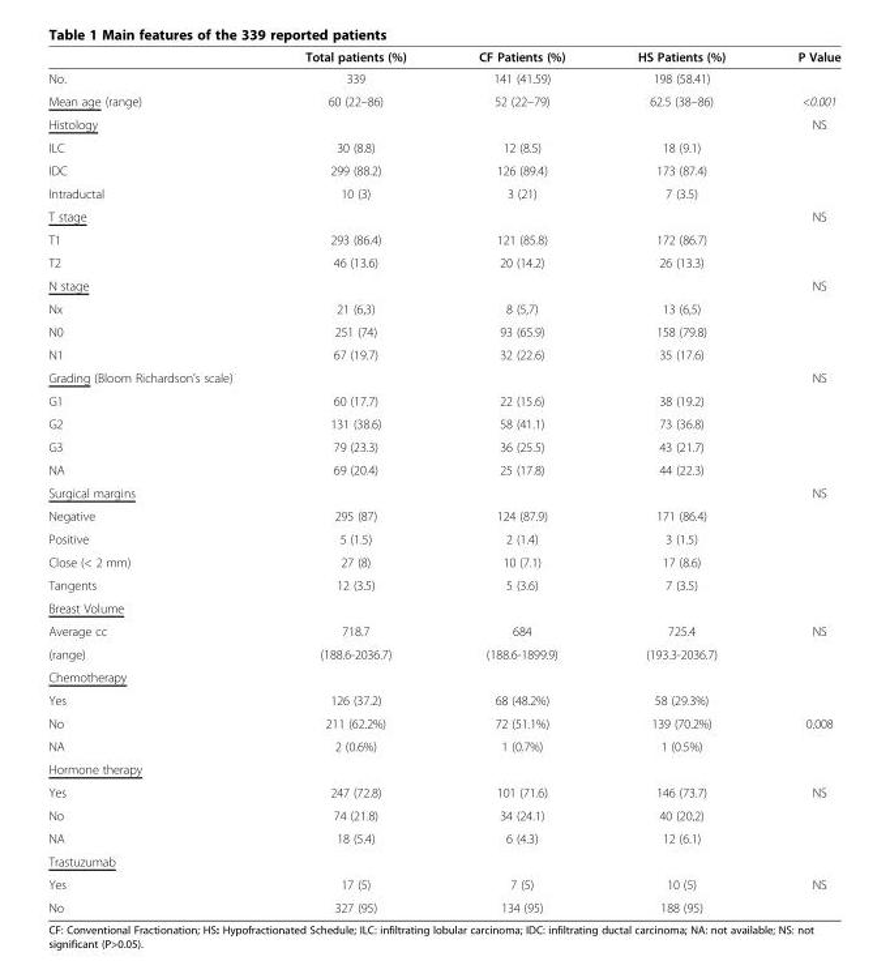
<table><thead><tr><td></td><td>Total patients (%)</td><td>CF Patients (%)</td><td>HS Patients (%)</td><td>P Value</td></tr></thead><tbody><tr><td>No.</td><td>339</td><td>141 (41.59)</td><td>198 (58.41)</td><td></td></tr><tr><td>Mean age (range)</td><td>60 (22–86)</td><td>52 (22–79)</td><td>62.5 (38–86)</td><td>&lt;0.001</td></tr><tr><td>Histology</td><td></td><td></td><td></td><td>NS</td></tr><tr><td>ILC</td><td>30 (8.8)</td><td>12 (8.5)</td><td>18 (9.1)</td><td></td></tr><tr><td>IDC</td><td>299 (88.2)</td><td>126 (89.4)</td><td>173 (87.4)</td><td></td></tr><tr><td>Intraductal</td><td>10 (3)</td><td>3 (21)</td><td>7 (3.5)</td><td></td></tr><tr><td>T stage</td><td></td><td></td><td></td><td>NS</td></tr><tr><td>T1</td><td>293 (86.4)</td><td>121 (85.8)</td><td>172 (86.7)</td><td></td></tr><tr><td>T2</td><td>46 (13.6)</td><td>20 (14.2)</td><td>26 (13.3)</td><td></td></tr><tr><td>N stage</td><td></td><td></td><td></td><td>NS</td></tr><tr><td>Nx</td><td>21 (6,3)</td><td>8 (5,7)</td><td>13 (6,5)</td><td></td></tr><tr><td>N0</td><td>251 (74)</td><td>93 (65.9)</td><td>158 (79.8)</td><td></td></tr><tr><td>N1</td><td>67 (19.7)</td><td>32 (22.6)</td><td>35 (17.6)</td><td></td></tr><tr><td>Grading (Bloom Richardson’s scale)</td><td></td><td></td><td></td><td>NS</td></tr><tr><td>G1</td><td>60 (17.7)</td><td>22 (15.6)</td><td>38 (19.2)</td><td></td></tr><tr><td>G2</td><td>131 (38.6)</td><td>58 (41.1)</td><td>73 (36.8)</td><td></td></tr><tr><td>G3</td><td>79 (23.3)</td><td>36 (25.5)</td><td>43 (21.7)</td><td></td></tr><tr><td>NA</td><td>69 (20.4)</td><td>25 (17.8)</td><td>44 (22.3)</td><td></td></tr><tr><td>Surgical margins</td><td></td><td></td><td></td><td>NS</td></tr><tr><td>Negative</td><td>295 (87)</td><td>124 (87.9)</td><td>171 (86.4)</td><td></td></tr><tr><td>Positive</td><td>5 (1.5)</td><td>2 (1.4)</td><td>3 (1.5)</td><td></td></tr><tr><td>Close (&lt; 2 mm)</td><td>27 (8)</td><td>10 (7.1)</td><td>17 (8.6)</td><td></td></tr><tr><td>Tangents</td><td>12 (3.5)</td><td>5 (3.6)</td><td>7 (3.5)</td><td></td></tr><tr><td colspan="5">Breast Volume</td></tr><tr><td>Average cc</td><td>718.7</td><td>684</td><td>725.4</td><td rowspan="2">NS</td></tr><tr><td>(range)</td><td>(188.6-2036.7)</td><td>(188.6-1899.9)</td><td>(193.3-2036.7)</td></tr><tr><td colspan="5">Chemotherapy</td></tr><tr><td>Yes</td><td>126 (37.2)</td><td>68 (48.2%)</td><td>58 (29.3%)</td><td></td></tr><tr><td>No</td><td>211 (62.2%)</td><td>72 (51.1%)</td><td>139 (70.2%)</td><td>0.008</td></tr><tr><td>NA</td><td>2 (0.6%)</td><td>1 (0.7%)</td><td>1 (0.5%)</td><td></td></tr><tr><td colspan="5">Hormone therapy</td></tr><tr><td>Yes</td><td>247 (72.8)</td><td>101 (71.6)</td><td>146 (73.7)</td><td>NS</td></tr><tr><td>No</td><td>74 (21.8)</td><td>34 (24.1)</td><td>40 (20,2)</td><td></td></tr><tr><td>NA</td><td>18 (5.4)</td><td>6 (4.3)</td><td>12 (6.1)</td><td></td></tr><tr><td colspan="5">Trastuzumab</td></tr><tr><td>Yes</td><td>17 (5)</td><td>7 (5)</td><td>10 (5)</td><td>NS</td></tr><tr><td>No</td><td>327 (95)</td><td>134 (95)</td><td>188 (95)</td><td></td></tr></tbody></table>